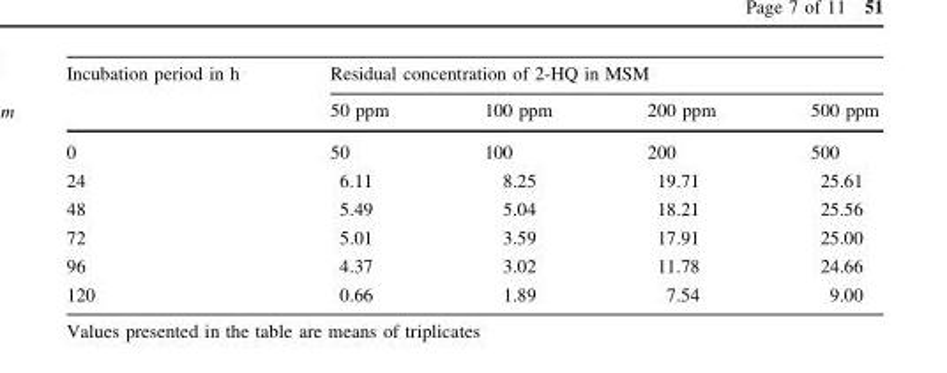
<table><thead><tr><td rowspan="2">Incubation period in h</td><td colspan="4">Residual concentration of 2-HQ in MSM</td></tr><tr><td>50 ppm</td><td>100 ppm</td><td>200 ppm</td><td>500 ppm</td></tr></thead><tbody><tr><td>0</td><td>50</td><td>100</td><td>200</td><td>500</td></tr><tr><td>24</td><td>6.11</td><td>8.25</td><td>19.71</td><td>25.61</td></tr><tr><td>48</td><td>5.49</td><td>5.04</td><td>18.21</td><td>25.56</td></tr><tr><td>72</td><td>5.01</td><td>3.59</td><td>17.91</td><td>25.00</td></tr><tr><td>96</td><td>4.37</td><td>3.02</td><td>11.78</td><td>24.66</td></tr><tr><td>120</td><td>0.66</td><td>1.89</td><td>7.54</td><td>9.00</td></tr></tbody></table>